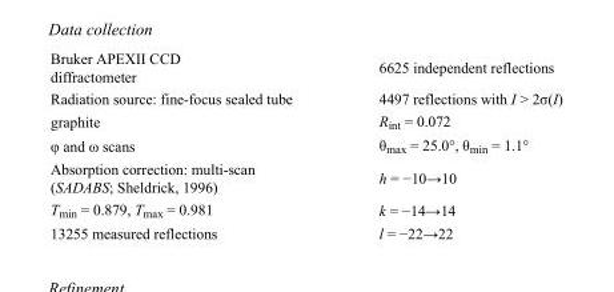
<table><tbody><tr><td>Bruker APEXII CCD diffractometer</td><td>6625 independent reflections</td></tr><tr><td>Radiation source: fine-focus sealed tube</td><td>4497 reflections with I &gt; 2σ(I)</td></tr><tr><td>graphite</td><td>R<sub>int</sub> = 0.072</td></tr><tr><td>φ and ω scans</td><td>θ<sub>max</sub> = 25.0°, θ<sub>min</sub> = 1.1°</td></tr><tr><td>Absorption correction: multi-scan (SADABS; Sheldrick, 1996)</td><td>h = −10→10</td></tr><tr><td>T<sub>min</sub> = 0.879, T<sub>max</sub> = 0.981</td><td>k = −14→14</td></tr><tr><td>13255 measured reflections</td><td>l = −22→22</td></tr></tbody></table>